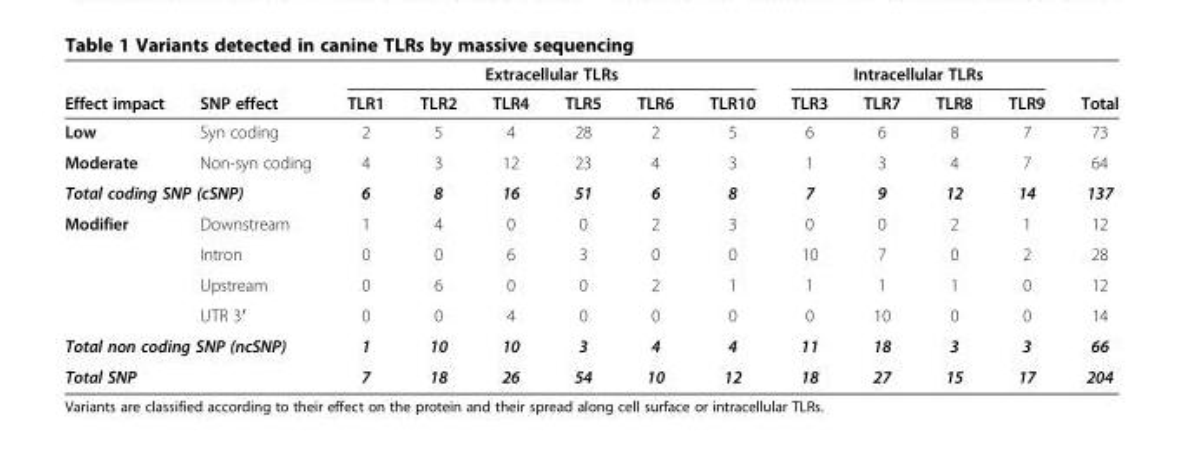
<table><thead><tr><td rowspan="2">Effect impact</td><td rowspan="2">SNP effect</td><td colspan="6">Extracellular TLRs</td><td colspan="4">Intracellular TLRs</td><td rowspan="2">Total</td></tr><tr><td>TLR1</td><td>TLR2</td><td>TLR4</td><td>TLR5</td><td>TLR6</td><td>TLR10</td><td>TLR3</td><td>TLR7</td><td>TLR8</td><td>TLR9</td></tr></thead><tbody><tr><td>Low</td><td>Syn coding</td><td>2</td><td>5</td><td>4</td><td>28</td><td>2</td><td>5</td><td>6</td><td>6</td><td>8</td><td>7</td><td>73</td></tr><tr><td>Moderate</td><td>Non-syn coding</td><td>4</td><td>3</td><td>12</td><td>23</td><td>4</td><td>3</td><td>1</td><td>3</td><td>4</td><td>7</td><td>64</td></tr><tr><td colspan="2">Total coding SNP (cSNP)</td><td>6</td><td>8</td><td>16</td><td>51</td><td>6</td><td>8</td><td>7</td><td>9</td><td>12</td><td>14</td><td>137</td></tr><tr><td rowspan="4">Modifier</td><td>Downstream</td><td>1</td><td>4</td><td>0</td><td>0</td><td>2</td><td>3</td><td>0</td><td>0</td><td>2</td><td>1</td><td>12</td></tr><tr><td>Intron</td><td>0</td><td>0</td><td>6</td><td>3</td><td>0</td><td>0</td><td>10</td><td>7</td><td>0</td><td>2</td><td>28</td></tr><tr><td>Upstream</td><td>0</td><td>6</td><td>0</td><td>0</td><td>2</td><td>1</td><td>1</td><td>1</td><td>1</td><td>0</td><td>12</td></tr><tr><td>UTR 3′</td><td>0</td><td>0</td><td>4</td><td>0</td><td>0</td><td>0</td><td>0</td><td>10</td><td>0</td><td>0</td><td>14</td></tr><tr><td colspan="2">Total non coding SNP (ncSNP)</td><td>1</td><td>10</td><td>10</td><td>3</td><td>4</td><td>4</td><td>11</td><td>18</td><td>3</td><td>3</td><td>66</td></tr><tr><td colspan="2">Total SNP</td><td>7</td><td>18</td><td>26</td><td>54</td><td>10</td><td>12</td><td>18</td><td>27</td><td>15</td><td>17</td><td>204</td></tr></tbody></table>